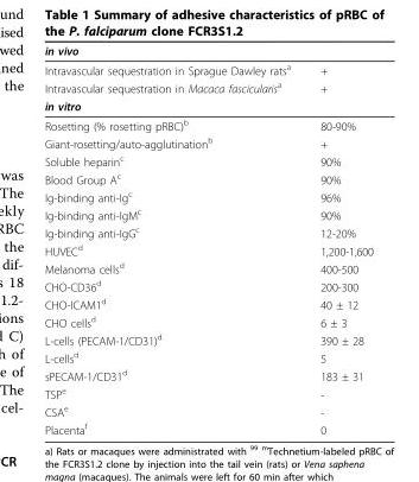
<table><thead><tr><td>in vivo</td><td></td></tr></thead><tbody><tr><td>Intravascular sequestration in Sprague Dawley rats<sup>a</sup></td><td>+</td></tr><tr><td>Intravascular sequestration in Macaca fascicularis<sup>a</sup></td><td>+</td></tr><tr><td colspan="2">in vitro</td></tr><tr><td>Rosetting (% rosetting pRBC)<sup>b</sup></td><td>80-90%</td></tr><tr><td>Giant-rosetting/auto-agglutination<sup>b</sup></td><td>+</td></tr><tr><td>Soluble heparin<sup>c</sup></td><td>90%</td></tr><tr><td>Blood Group A<sup>c</sup></td><td>90%</td></tr><tr><td>Ig-binding anti-Ig<sup>c</sup></td><td>96%</td></tr><tr><td>Ig-binding anti-IgM<sup>c</sup></td><td>90%</td></tr><tr><td>Ig-binding anti-IgG<sup>c</sup></td><td>12-20%</td></tr><tr><td>HUVEC<sup>d</sup></td><td>1,200-1,600</td></tr><tr><td>Melanoma cells<sup>d</sup></td><td>400-500</td></tr><tr><td>CHO-CD36<sup>d</sup></td><td>200-300</td></tr><tr><td>CHO-ICAM1<sup>d</sup></td><td>40 ± 12</td></tr><tr><td>CHO cells<sup>d</sup></td><td>6 ± 3</td></tr><tr><td>L-cells (PECAM-1/CD31)<sup>d</sup></td><td>390 ± 28</td></tr><tr><td>L-cells<sup>d</sup></td><td>5</td></tr><tr><td>sPECAM-1/CD31<sup>d</sup></td><td>183 ± 31</td></tr><tr><td>TSP<sup>e</sup></td><td>-</td></tr><tr><td>CSA<sup>e</sup></td><td>-</td></tr><tr><td>Placenta<sup>f</sup></td><td>0</td></tr></tbody></table>